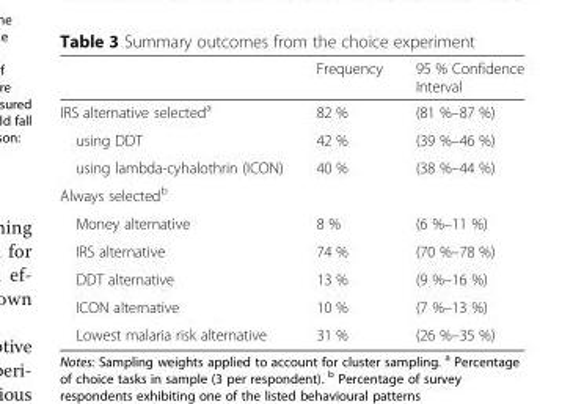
<table><thead><tr><td></td><td>Frequency</td><td>95 % Confidence Interval</td></tr></thead><tbody><tr><td>IRS alternative selected<sup>a</sup></td><td>82 %</td><td>(81 %–87 %)</td></tr><tr><td>using DDT</td><td>42 %</td><td>(39 %–46 %)</td></tr><tr><td>using lambda-cyhalothrin (ICON)</td><td>40 %</td><td>(38 %–44 %)</td></tr><tr><td colspan="3">Always selected<sup>b</sup></td></tr><tr><td>Money alternative</td><td>8 %</td><td>(6 %–11 %)</td></tr><tr><td>IRS alternative</td><td>74 %</td><td>(70 %–78 %)</td></tr><tr><td>DDT alternative</td><td>13 %</td><td>(9 %–16 %)</td></tr><tr><td>ICON alternative</td><td>10 %</td><td>(7 %–13 %)</td></tr><tr><td>Lowest malaria risk alternative</td><td>31 %</td><td>(26 %–35 %)</td></tr></tbody></table>